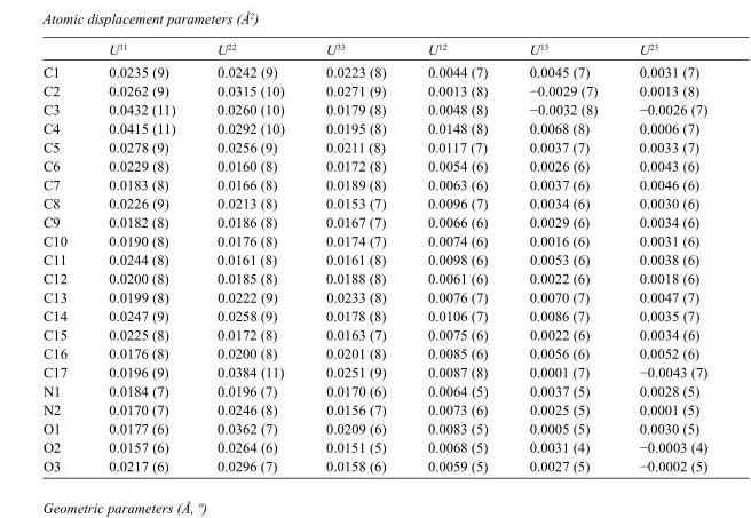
<table><thead><tr><td></td><td>U<sup>11</sup></td><td>U<sup>22</sup></td><td>U<sup>33</sup></td><td>U<sup>12</sup></td><td>U<sup>13</sup></td><td>U<sup>23</sup></td></tr></thead><tbody><tr><td>C1</td><td>0.0235 (9)</td><td>0.0242 (9)</td><td>0.0223 (8)</td><td>0.0044 (7)</td><td>0.0045 (7)</td><td>0.0031 (7)</td></tr><tr><td>C2</td><td>0.0262 (9)</td><td>0.0315 (10)</td><td>0.0271 (9)</td><td>0.0013 (8)</td><td>−0.0029 (7)</td><td>0.0013 (8)</td></tr><tr><td>C3</td><td>0.0432 (11)</td><td>0.0260 (10)</td><td>0.0179 (8)</td><td>0.0048 (8)</td><td>−0.0032 (8)</td><td>−0.0026 (7)</td></tr><tr><td>C4</td><td>0.0415 (11)</td><td>0.0292 (10)</td><td>0.0195 (8)</td><td>0.0148 (8)</td><td>0.0068 (8)</td><td>0.0006 (7)</td></tr><tr><td>C5</td><td>0.0278 (9)</td><td>0.0256 (9)</td><td>0.0211 (8)</td><td>0.0117 (7)</td><td>0.0037 (7)</td><td>0.0033 (7)</td></tr><tr><td>C6</td><td>0.0229 (8)</td><td>0.0160 (8)</td><td>0.0172 (8)</td><td>0.0054 (6)</td><td>0.0026 (6)</td><td>0.0043 (6)</td></tr><tr><td>C7</td><td>0.0183 (8)</td><td>0.0166 (8)</td><td>0.0189 (8)</td><td>0.0063 (6)</td><td>0.0037 (6)</td><td>0.0046 (6)</td></tr><tr><td>C8</td><td>0.0226 (9)</td><td>0.0213 (8)</td><td>0.0153 (7)</td><td>0.0096 (7)</td><td>0.0034 (6)</td><td>0.0030 (6)</td></tr><tr><td>C9</td><td>0.0182 (8)</td><td>0.0186 (8)</td><td>0.0167 (7)</td><td>0.0066 (6)</td><td>0.0029 (6)</td><td>0.0034 (6)</td></tr><tr><td>C10</td><td>0.0190 (8)</td><td>0.0176 (8)</td><td>0.0174 (7)</td><td>0.0074 (6)</td><td>0.0016 (6)</td><td>0.0031 (6)</td></tr><tr><td>C11</td><td>0.0244 (8)</td><td>0.0161 (8)</td><td>0.0161 (8)</td><td>0.0098 (6)</td><td>0.0053 (6)</td><td>0.0038 (6)</td></tr><tr><td>C12</td><td>0.0200 (8)</td><td>0.0185 (8)</td><td>0.0188 (8)</td><td>0.0061 (6)</td><td>0.0022 (6)</td><td>0.0018 (6)</td></tr><tr><td>C13</td><td>0.0199 (8)</td><td>0.0222 (9)</td><td>0.0233 (8)</td><td>0.0076 (7)</td><td>0.0070 (7)</td><td>0.0047 (7)</td></tr><tr><td>C14</td><td>0.0247 (9)</td><td>0.0258 (9)</td><td>0.0178 (8)</td><td>0.0106 (7)</td><td>0.0086 (7)</td><td>0.0035 (7)</td></tr><tr><td>C15</td><td>0.0225 (8)</td><td>0.0172 (8)</td><td>0.0163 (7)</td><td>0.0075 (6)</td><td>0.0022 (6)</td><td>0.0034 (6)</td></tr><tr><td>C16</td><td>0.0176 (8)</td><td>0.0200 (8)</td><td>0.0201 (8)</td><td>0.0085 (6)</td><td>0.0056 (6)</td><td>0.0052 (6)</td></tr><tr><td>C17</td><td>0.0196 (9)</td><td>0.0384 (11)</td><td>0.0251 (9)</td><td>0.0087 (8)</td><td>0.0001 (7)</td><td>−0.0043 (7)</td></tr><tr><td>N1</td><td>0.0184 (7)</td><td>0.0196 (7)</td><td>0.0170 (6)</td><td>0.0064 (5)</td><td>0.0037 (5)</td><td>0.0028 (5)</td></tr><tr><td>N2</td><td>0.0170 (7)</td><td>0.0246 (8)</td><td>0.0156 (7)</td><td>0.0073 (6)</td><td>0.0025 (5)</td><td>0.0001 (5)</td></tr><tr><td>O1</td><td>0.0177 (6)</td><td>0.0362 (7)</td><td>0.0209 (6)</td><td>0.0083 (5)</td><td>0.0005 (5)</td><td>0.0030 (5)</td></tr><tr><td>O2</td><td>0.0157 (6)</td><td>0.0264 (6)</td><td>0.0151 (5)</td><td>0.0068 (5)</td><td>0.0031 (4)</td><td>−0.0003 (4)</td></tr><tr><td>O3</td><td>0.0217 (6)</td><td>0.0296 (7)</td><td>0.0158 (6)</td><td>0.0059 (5)</td><td>0.0027 (5)</td><td>−0.0002 (5)</td></tr></tbody></table>